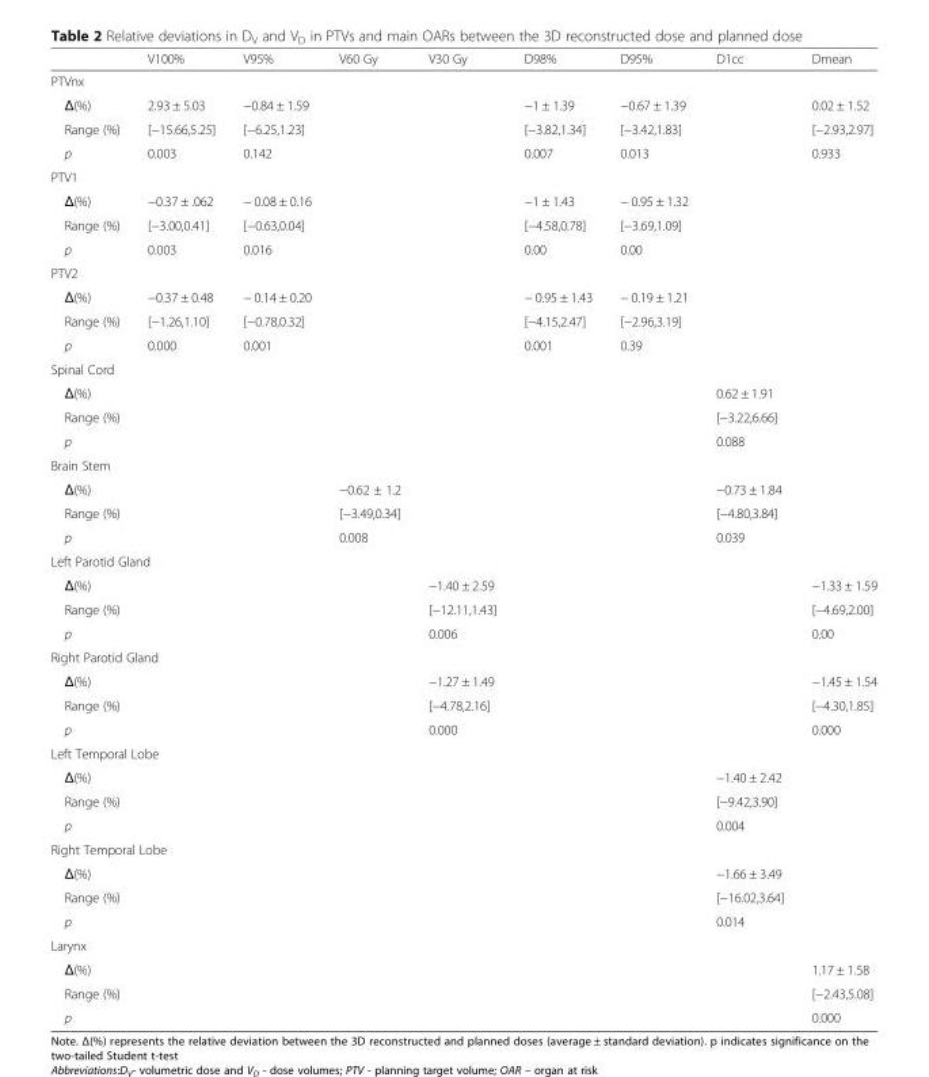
<table><thead><tr><td></td><td>V100%</td><td>V95%</td><td>V60 Gy</td><td>V30 Gy</td><td>D98%</td><td>D95%</td><td>D1cc</td><td>Dmean</td></tr></thead><tbody><tr><td colspan="9">PTVnx</td></tr><tr><td>Δ(%)</td><td>2.93 ± 5.03</td><td>−0.84 ± 1.59</td><td colspan="2"></td><td>−1 ± 1.39</td><td>−0.67 ± 1.39</td><td rowspan="3"></td><td>0.02 ± 1.52</td></tr><tr><td>Range (%)</td><td>[−15.66,5.25]</td><td>[−6.25,1.23]</td><td rowspan="2" colspan="2"></td><td>[−3.82,1.34]</td><td>[−3.42,1.83]</td><td>[−2.93,2.97]</td></tr><tr><td>p</td><td>0.003</td><td>0.142</td><td>0.007</td><td>0.013</td><td>0.933</td></tr><tr><td colspan="9">PTV1</td></tr><tr><td>Δ(%)</td><td>−0.37 ± .062</td><td>− 0.08 ± 0.16</td><td colspan="2"></td><td>−1 ± 1.43</td><td>− 0.95 ± 1.32</td><td colspan="2"></td></tr><tr><td>Range (%)</td><td>[−3.00,0.41]</td><td>[−0.63,0.04]</td><td rowspan="2" colspan="2"></td><td>[−4.58,0.78]</td><td>[−3.69,1.09]</td><td rowspan="2" colspan="2"></td></tr><tr><td>p</td><td>0.003</td><td>0.016</td><td>0.00</td><td>0.00</td></tr><tr><td colspan="9">PTV2</td></tr><tr><td>Δ(%)</td><td>−0.37 ± 0.48</td><td>− 0.14 ± 0.20</td><td colspan="2"></td><td>− 0.95 ± 1.43</td><td>− 0.19 ± 1.21</td><td colspan="2"></td></tr><tr><td>Range (%)</td><td>[−1.26,1.10]</td><td>[−0.78,0.32]</td><td rowspan="2" colspan="2"></td><td>[−4.15,2.47]</td><td>[−2.96,3.19]</td><td rowspan="2" colspan="2"></td></tr><tr><td>p</td><td>0.000</td><td>0.001</td><td>0.001</td><td>0.39</td></tr><tr><td colspan="9">Spinal Cord</td></tr><tr><td>Δ(%)</td><td rowspan="3" colspan="6"></td><td>0.62 ± 1.91</td><td rowspan="3"></td></tr><tr><td>Range (%)</td><td>[−3.22,6.66]</td></tr><tr><td>p</td><td>0.088</td></tr><tr><td colspan="9">Brain Stem</td></tr><tr><td>Δ(%)</td><td rowspan="3" colspan="2"></td><td>−0.62 ± 1.2</td><td rowspan="3" colspan="3"></td><td>−0.73 ± 1.84</td><td rowspan="3"></td></tr><tr><td>Range (%)</td><td>[−3.49,0.34]</td><td>[−4.80,3.84]</td></tr><tr><td>p</td><td>0.008</td><td>0.039</td></tr><tr><td colspan="9">Left Parotid Gland</td></tr><tr><td>Δ(%)</td><td rowspan="3" colspan="3"></td><td>−1.40 ± 2.59</td><td rowspan="3" colspan="3"></td><td>−1.33 ± 1.59</td></tr><tr><td>Range (%)</td><td>[−12.11,1.43]</td><td>[−4.69,2.00]</td></tr><tr><td>p</td><td>0.006</td><td>0.00</td></tr><tr><td colspan="9">Right Parotid Gland</td></tr><tr><td>Δ(%)</td><td rowspan="3" colspan="3"></td><td>−1.27 ± 1.49</td><td rowspan="3" colspan="3"></td><td>−1.45 ± 1.54</td></tr><tr><td>Range (%)</td><td>[−4.78,2.16]</td><td>[−4.30,1.85]</td></tr><tr><td>p</td><td>0.000</td><td>0.000</td></tr><tr><td colspan="9">Left Temporal Lobe</td></tr><tr><td>Δ(%)</td><td rowspan="3" colspan="6"></td><td>−1.40 ± 2.42</td><td rowspan="3"></td></tr><tr><td>Range (%)</td><td>[−9.42,3.90]</td></tr><tr><td>p</td><td>0.004</td></tr><tr><td colspan="9">Right Temporal Lobe</td></tr><tr><td>Δ(%)</td><td rowspan="3" colspan="6"></td><td>−1.66 ± 3.49</td><td rowspan="3"></td></tr><tr><td>Range (%)</td><td>[−16.02,3.64]</td></tr><tr><td>p</td><td>0.014</td></tr><tr><td colspan="9">Larynx</td></tr><tr><td>Δ(%)</td><td rowspan="3" colspan="7"></td><td>1.17 ± 1.58</td></tr><tr><td>Range (%)</td><td>[−2.43,5.08]</td></tr><tr><td>p</td><td>0.000</td></tr></tbody></table>